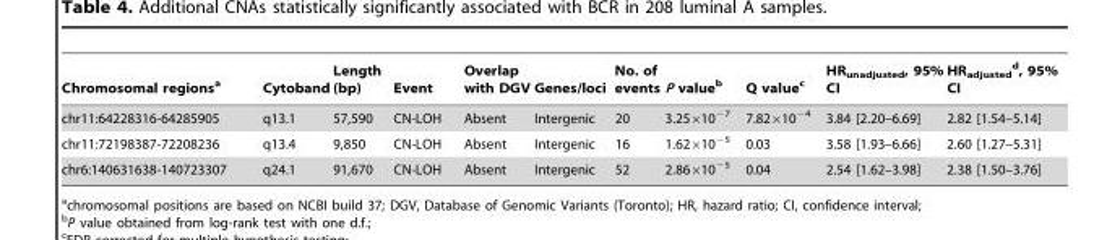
<table><thead><tr><td>Chromosomal regions<sup>a</sup></td><td>Cytoband</td><td>Length (bp)</td><td>Event</td><td>Overlap with DGV</td><td>Genes/loci</td><td>No. of events</td><td>P value<sup>b</sup></td><td>Q value<sup>c</sup></td><td>HR<sub>unadjusted</sub>, 95% CI</td><td>HR<sub>adjusted</sub> d, 95% CI</td></tr></thead><tbody><tr><td>chr11:64228316-64285905</td><td>q13.1</td><td>57,590</td><td>CN-LOH</td><td>Absent</td><td>Intergenic</td><td>20</td><td>3.25×10<sup>−7</sup></td><td>7.82×10<sup>−4</sup></td><td>3.84 [2.20–6.69]</td><td>2.82 [1.54–5.14]</td></tr><tr><td>chr11:72198387-72208236</td><td>q13.4</td><td>9,850</td><td>CN-LOH</td><td>Absent</td><td>Intergenic</td><td>16</td><td>1.62×10<sup>−5</sup></td><td>0.03</td><td>3.58 [1.93–6.66]</td><td>2.60 [1.27–5.31]</td></tr><tr><td>chr6:140631638-140723307</td><td>q24.1</td><td>91,670</td><td>CN-LOH</td><td>Absent</td><td>Intergenic</td><td>52</td><td>2.86×10<sup>−5</sup></td><td>0.04</td><td>2.54 [1.62–3.98]</td><td>2.38 [1.50–3.76]</td></tr></tbody></table>